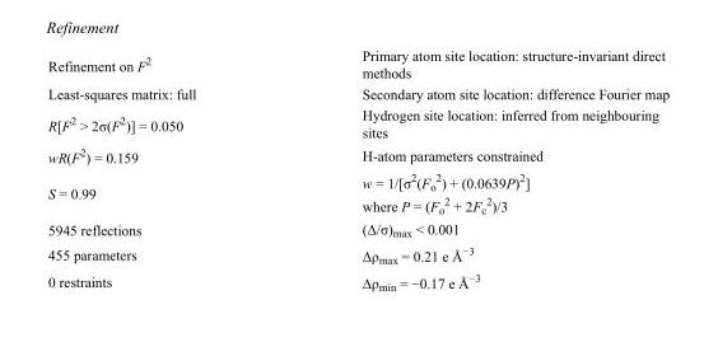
<table><tbody><tr><td>Refinement on F<sup>2</sup></td><td>Primary atom site location: structure-invariant direct methods</td></tr><tr><td>Least-squares matrix: full</td><td>Secondary atom site location: difference Fourier map</td></tr><tr><td>R[F<sup>2</sup> &gt; 2σ(F<sup>2</sup>)] = 0.050</td><td>Hydrogen site location: inferred from neighbouring sites</td></tr><tr><td>wR(F<sup>2</sup>) = 0.159</td><td>H-atom parameters constrained</td></tr><tr><td>S = 0.99</td><td>w = 1/[σ<sup>2</sup>(F<sub>o</sub> <sup>2</sup>) + (0.0639P)<sup>2</sup>] where P = (F<sub>o</sub> <sup>2</sup> + 2F<sub>c</sub> <sup>2</sup>)/3</td></tr><tr><td>5945 reflections</td><td>(Δ/σ)<sub>max</sub> &lt; 0.001</td></tr><tr><td>455 parameters</td><td>Δρ<sub>max</sub> = 0.21 e Å<sup>−3</sup></td></tr><tr><td>0 restraints</td><td>Δρ<sub>min</sub> = −0.17 e Å<sup>−3</sup></td></tr></tbody></table>